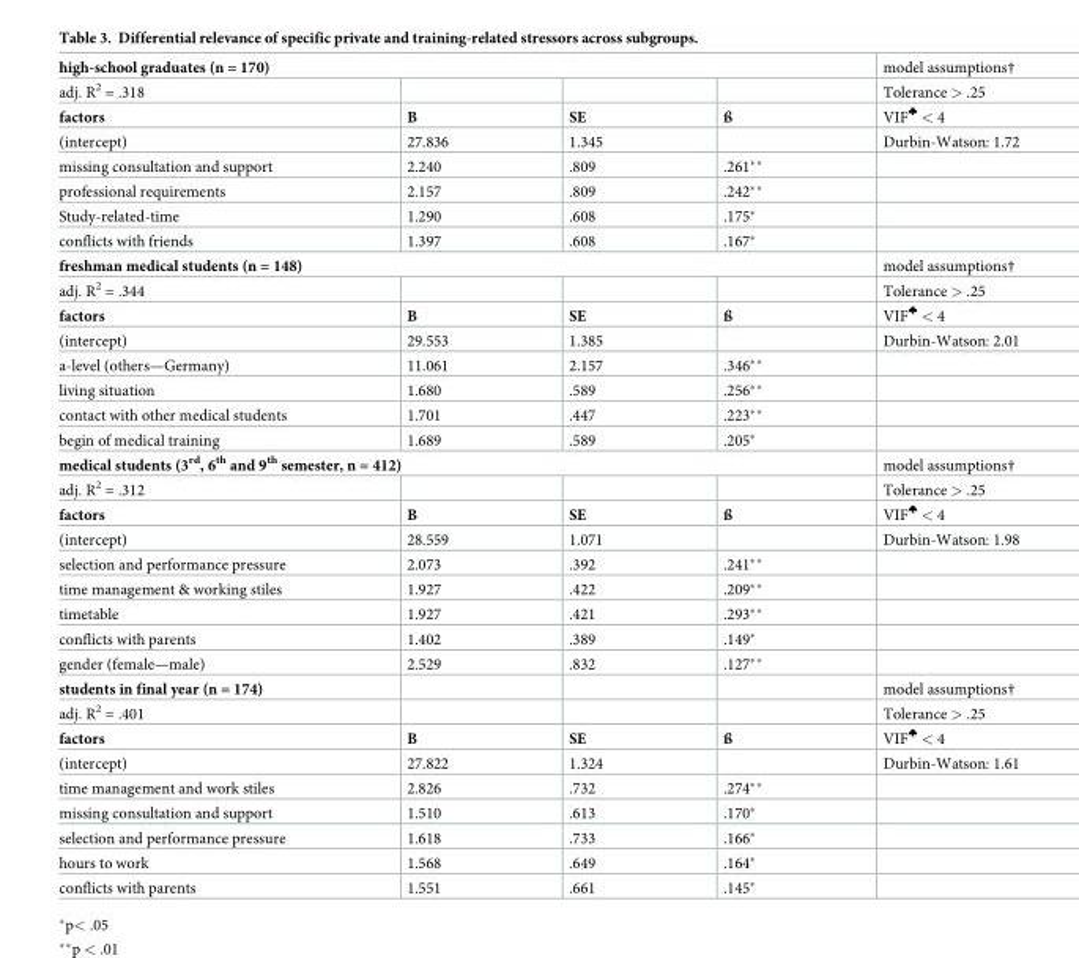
<table><tbody><tr><td colspan="4">high-school graduates (n = 170)</td><td>model assumptions†</td></tr><tr><td>adj. R<sup>2</sup> = .318</td><td></td><td></td><td></td><td>Tolerance &gt; .25</td></tr><tr><td>factors</td><td>B</td><td>SE</td><td>ß</td><td>VIF<sup>♣</sup> &lt; 4</td></tr><tr><td>(intercept)</td><td>27.836</td><td>1.345</td><td></td><td>Durbin-Watson: 1.72</td></tr><tr><td>missing consultation and support</td><td>2.240</td><td>.809</td><td>.261**</td><td></td></tr><tr><td>professional requirements</td><td>2.157</td><td>.809</td><td>.242**</td><td></td></tr><tr><td>Study-related-time</td><td>1.290</td><td>.608</td><td>.175*</td><td></td></tr><tr><td>conflicts with friends</td><td>1.397</td><td>.608</td><td>.167*</td><td></td></tr><tr><td colspan="4">freshman medical students (n = 148)</td><td>model assumptions†</td></tr><tr><td>adj. R<sup>2</sup> = .344</td><td></td><td></td><td></td><td>Tolerance &gt; .25</td></tr><tr><td>factors</td><td>B</td><td>SE</td><td>ß</td><td>VIF<sup>♣</sup> &lt; 4</td></tr><tr><td>(intercept)</td><td>29.553</td><td>1.385</td><td></td><td>Durbin-Watson: 2.01</td></tr><tr><td>a-level (others—Germany)</td><td>11.061</td><td>2.157</td><td>.346**</td><td></td></tr><tr><td>living situation</td><td>1.680</td><td>.589</td><td>.256**</td><td></td></tr><tr><td>contact with other medical students</td><td>1.701</td><td>.447</td><td>.223**</td><td></td></tr><tr><td>begin of medical training</td><td>1.689</td><td>.589</td><td>.205*</td><td></td></tr><tr><td colspan="4">medical students (3<sup>rd</sup>, 6<sup>th</sup> and 9<sup>th</sup> semester, n = 412)</td><td>model assumptions†</td></tr><tr><td>adj. R<sup>2</sup> = .312</td><td></td><td></td><td></td><td>Tolerance &gt; .25</td></tr><tr><td>factors</td><td>B</td><td>SE</td><td>ß</td><td>VIF<sup>♣</sup> &lt; 4</td></tr><tr><td>(intercept)</td><td>28.559</td><td>1.071</td><td></td><td>Durbin-Watson: 1.98</td></tr><tr><td>selection and performance pressure</td><td>2.073</td><td>.392</td><td>.241**</td><td></td></tr><tr><td>time management &amp; working stiles</td><td>1.927</td><td>.422</td><td>.209**</td><td></td></tr><tr><td>timetable</td><td>1.927</td><td>.421</td><td>.293**</td><td></td></tr><tr><td>conflicts with parents</td><td>1.402</td><td>.389</td><td>.149*</td><td></td></tr><tr><td>gender (female—male)</td><td>2.529</td><td>.832</td><td>.127**</td><td></td></tr><tr><td>students in final year (n = 174)</td><td></td><td></td><td></td><td>model assumptions†</td></tr><tr><td>adj. R<sup>2</sup> = .401</td><td></td><td></td><td></td><td>Tolerance &gt; .25</td></tr><tr><td>factors</td><td>B</td><td>SE</td><td>ß</td><td>VIF<sup>♣</sup> &lt; 4</td></tr><tr><td>(intercept)</td><td>27.822</td><td>1.324</td><td></td><td>Durbin-Watson: 1.61</td></tr><tr><td>time management and work stiles</td><td>2.826</td><td>.732</td><td>.274**</td><td></td></tr><tr><td>missing consultation and support</td><td>1.510</td><td>.613</td><td>.170*</td><td></td></tr><tr><td>selection and performance pressure</td><td>1.618</td><td>.733</td><td>.166*</td><td></td></tr><tr><td>hours to work</td><td>1.568</td><td>.649</td><td>.164*</td><td></td></tr><tr><td>conflicts with parents</td><td>1.551</td><td>.661</td><td>.145*</td><td></td></tr></tbody></table>